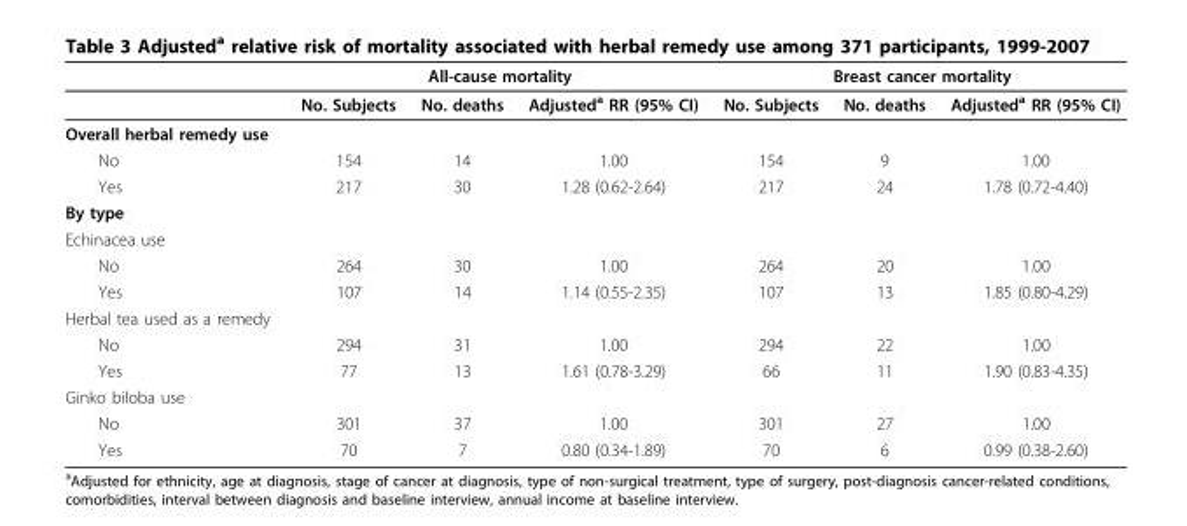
<table><thead><tr><td rowspan="2"></td><td colspan="3">All-cause mortality</td><td colspan="3">Breast cancer mortality</td></tr><tr><td>No. Subjects</td><td>No. deaths</td><td>Adjusted<sup>a</sup> RR (95% CI)</td><td>No. Subjects</td><td>No. deaths</td><td>Adjusted<sup>a</sup> RR (95% CI)</td></tr></thead><tbody><tr><td colspan="7">Overall herbal remedy use</td></tr><tr><td>No</td><td>154</td><td>14</td><td>1.00</td><td>154</td><td>9</td><td>1.00</td></tr><tr><td>Yes</td><td>217</td><td>30</td><td>1.28 (0.62-2.64)</td><td>217</td><td>24</td><td>1.78 (0.72-4.40)</td></tr><tr><td colspan="7">By type</td></tr><tr><td colspan="7">Echinacea use</td></tr><tr><td>No</td><td>264</td><td>30</td><td>1.00</td><td>264</td><td>20</td><td>1.00</td></tr><tr><td>Yes</td><td>107</td><td>14</td><td>1.14 (0.55-2.35)</td><td>107</td><td>13</td><td>1.85 (0.80-4.29)</td></tr><tr><td colspan="7">Herbal tea used as a remedy</td></tr><tr><td>No</td><td>294</td><td>31</td><td>1.00</td><td>294</td><td>22</td><td>1.00</td></tr><tr><td>Yes</td><td>77</td><td>13</td><td>1.61 (0.78-3.29)</td><td>66</td><td>11</td><td>1.90 (0.83-4.35)</td></tr><tr><td colspan="7">Ginko biloba use</td></tr><tr><td>No</td><td>301</td><td>37</td><td>1.00</td><td>301</td><td>27</td><td>1.00</td></tr><tr><td>Yes</td><td>70</td><td>7</td><td>0.80 (0.34-1.89)</td><td>70</td><td>6</td><td>0.99 (0.38-2.60)</td></tr></tbody></table>